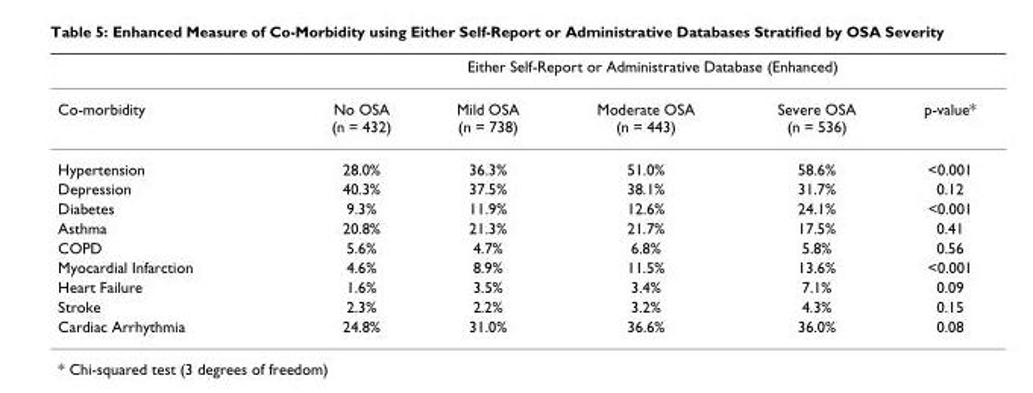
<table><thead><tr><td rowspan="2">Co-morbidity</td><td colspan="5">Either Self-Report or Administrative Database (Enhanced)</td></tr><tr><td>No OSA (n = 432)</td><td>Mild OSA (n = 738)</td><td>Moderate OSA (n = 443)</td><td>Severe OSA (n = 536)</td><td>p-value*</td></tr></thead><tbody><tr><td>Hypertension</td><td>28.0%</td><td>36.3%</td><td>51.0%</td><td>58.6%</td><td>&lt;0.001</td></tr><tr><td>Depression</td><td>40.3%</td><td>37.5%</td><td>38.1%</td><td>31.7%</td><td>0.12</td></tr><tr><td>Diabetes</td><td>9.3%</td><td>11.9%</td><td>12.6%</td><td>24.1%</td><td>&lt;0.001</td></tr><tr><td>Asthma</td><td>20.8%</td><td>21.3%</td><td>21.7%</td><td>17.5%</td><td>0.41</td></tr><tr><td>COPD</td><td>5.6%</td><td>4.7%</td><td>6.8%</td><td>5.8%</td><td>0.56</td></tr><tr><td>Myocardial Infarction</td><td>4.6%</td><td>8.9%</td><td>11.5%</td><td>13.6%</td><td>&lt;0.001</td></tr><tr><td>Heart Failure</td><td>1.6%</td><td>3.5%</td><td>3.4%</td><td>7.1%</td><td>0.09</td></tr><tr><td>Stroke</td><td>2.3%</td><td>2.2%</td><td>3.2%</td><td>4.3%</td><td>0.15</td></tr><tr><td>Cardiac Arrhythmia</td><td>24.8%</td><td>31.0%</td><td>36.6%</td><td>36.0%</td><td>0.08</td></tr></tbody></table>